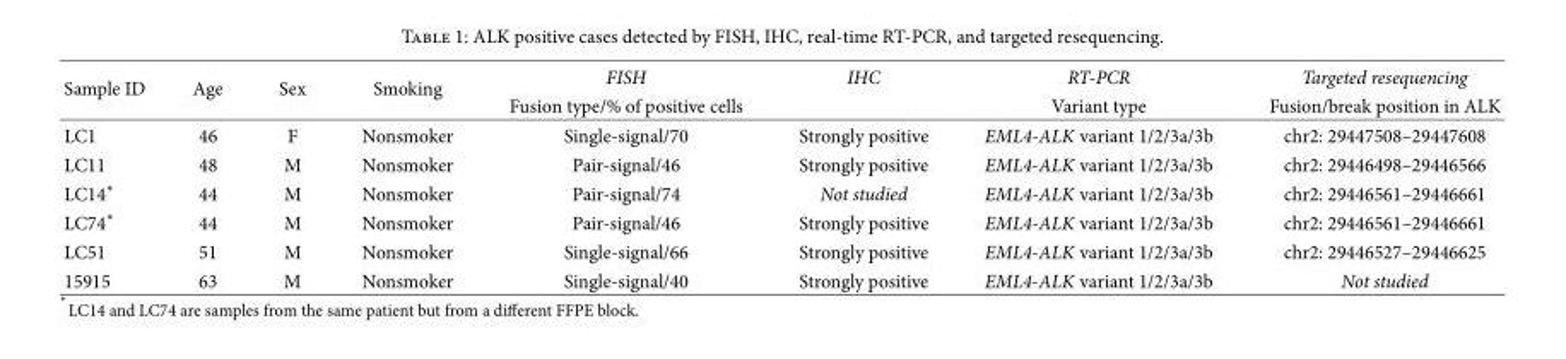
<table><thead><tr><td rowspan="2">Sample ID</td><td rowspan="2">Age</td><td rowspan="2">Sex</td><td rowspan="2">Smoking</td><td rowspan="2">FISH Fusion type/% of positive cells</td><td rowspan="2">IHC</td><td rowspan="2">RT-PCR Variant type</td><td rowspan="2">Targeted resequencing Fusion/break position in ALK</td></tr><tr></tr></thead><tbody><tr><td>LC1</td><td>46</td><td>F</td><td>Nonsmoker</td><td>Single-signal/70</td><td>Strongly positive</td><td>EML4-ALK variant 1/2/3a/3b</td><td>chr2: 29447508–29447608</td></tr><tr><td>LC11</td><td>48</td><td>M</td><td>Nonsmoker</td><td>Pair-signal/46</td><td>Strongly positive</td><td>EML4-ALK variant 1/2/3a/3b</td><td>chr2: 29446498–29446566</td></tr><tr><td>LC14∗</td><td>44</td><td>M</td><td>Nonsmoker</td><td>Pair-signal/74</td><td>Not studied</td><td>EML4-ALK variant 1/2/3a/3b</td><td>chr2: 29446561–29446661</td></tr><tr><td>LC74∗</td><td>44</td><td>M</td><td>Nonsmoker</td><td>Pair-signal/46</td><td>Strongly positive</td><td>EML4-ALK variant 1/2/3a/3b</td><td>chr2: 29446561–29446661</td></tr><tr><td>LC51</td><td>51</td><td>M</td><td>Nonsmoker</td><td>Single-signal/66</td><td>Strongly positive</td><td>EML4-ALK variant 1/2/3a/3b</td><td>chr2: 29446527–29446625</td></tr><tr><td>15915</td><td>63</td><td>M</td><td>Nonsmoker</td><td>Single-signal/40</td><td>Strongly positive</td><td>EML4-ALK variant 1/2/3a/3b</td><td>Not studied</td></tr></tbody></table>